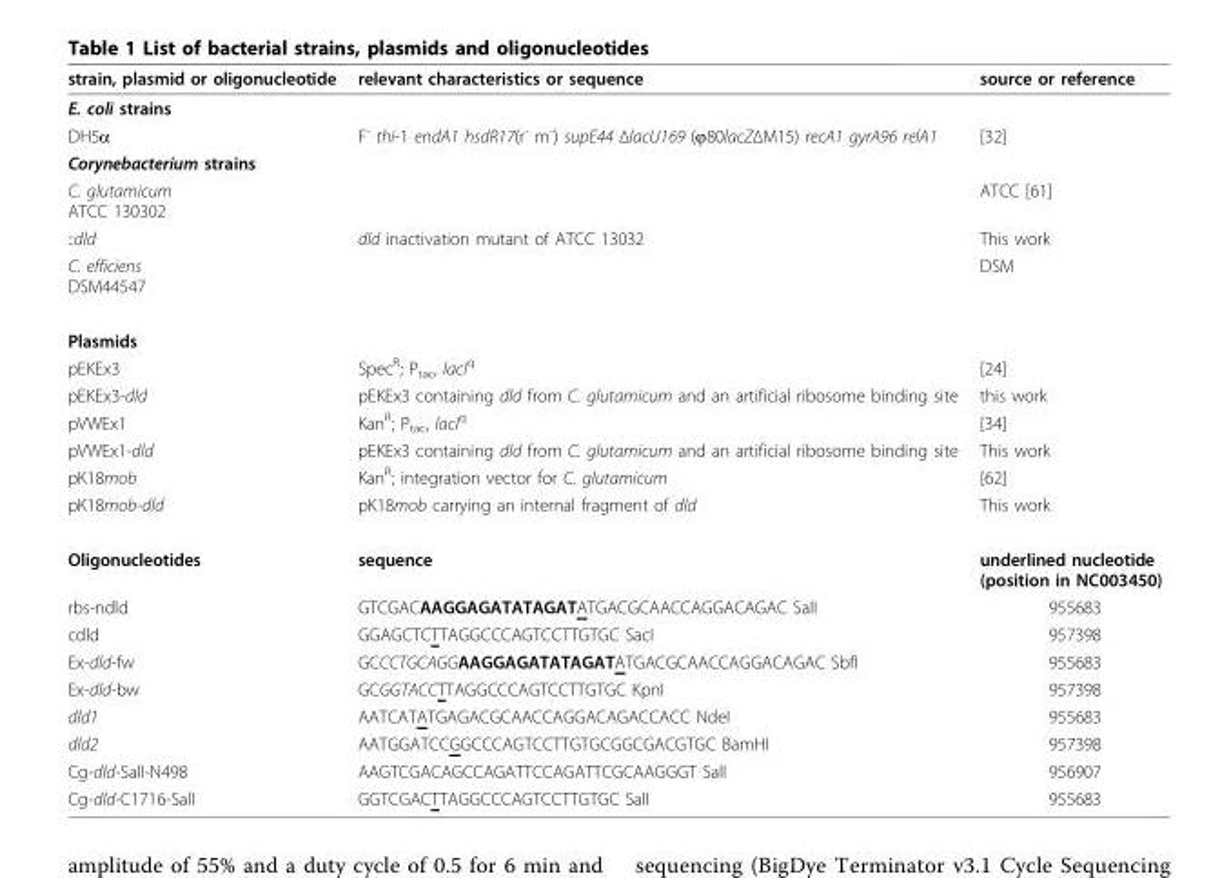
<table><thead><tr><td>strain, plasmid or oligonucleotide</td><td>relevant characteristics or sequence</td><td>source or reference</td></tr></thead><tbody><tr><td colspan="3">E. coli strains</td></tr><tr><td>DH5α</td><td>F<sup>-</sup> thi-1 endA1 hsdR17(r<sup>-</sup> m<sup>-</sup>) supE44 ΔlacU169 (ϕ80lacZΔM15) recA1 gyrA96 relA1</td><td>[32]</td></tr><tr><td colspan="3">Corynebacterium strains</td></tr><tr><td>C. glutamicum ATCC 130302</td><td></td><td>ATCC [61]</td></tr><tr><td>::dld</td><td>dld inactivation mutant of ATCC 13032</td><td>This work</td></tr><tr><td>C. efficiens DSM44547</td><td></td><td>DSM</td></tr><tr><td colspan="3">Plasmids</td></tr><tr><td>pEKEx3</td><td>Spec<sup>R</sup>; P<sub>tac</sub>, lacI<sup>q</sup></td><td>[24]</td></tr><tr><td>pEKEx3-dld</td><td>pEKEx3 containing dld from C. glutamicum and an artificial ribosome binding site</td><td>this work</td></tr><tr><td>pVWEx1</td><td>Kan<sup>R</sup>; P<sub>tac</sub>, lacI<sup>q</sup></td><td>[34]</td></tr><tr><td>pVWEx1-dld</td><td>pEKEx3 containing dld from C. glutamicum and an artificial ribosome binding site</td><td>This work</td></tr><tr><td>pK18mob</td><td>Kan<sup>R</sup>; integration vector for C. glutamicum</td><td>[62]</td></tr><tr><td>pK18mob-dld</td><td>pK18mob carrying an internal fragment of dld</td><td>This work</td></tr><tr><td>Oligonucleotides</td><td>sequence</td><td>underlined nucleotide (position in NC003450)</td></tr><tr><td>rbs-ndld</td><td>GTCGACAAGGAGATATAGATATGACGCAACCAGGACAGAC SalI</td><td>955683</td></tr><tr><td>cdld</td><td>GGAGCTCTTAGGCCCAGTCCTTGTGC SacI</td><td>957398</td></tr><tr><td>Ex-dld-fw</td><td>GCCCTGCAGGAAGGAGATATAGATATGACGCAACCAGGACAGAC SbfI</td><td>955683</td></tr><tr><td>Ex-dld-bw</td><td>GCGGTACCTTAGGCCCAGTCCTTGTGC KpnI</td><td>957398</td></tr><tr><td>dld1</td><td>AATCATATGAGACGCAACCAGGACAGACCACC NdeI</td><td>955683</td></tr><tr><td>dld2</td><td>AATGGATCCGGCCCAGTCCTTGTGCGGCGACGTGC BamHI</td><td>957398</td></tr><tr><td>Cg-dld-SalI-N498</td><td>AAGTCGACAGCCAGATTCCAGATTCGCAAGGGT SalI</td><td>956907</td></tr><tr><td>Cg-dld-C1716-SalI</td><td>GGTCGACTTAGGCCCAGTCCTTGTGC SalI</td><td>955683</td></tr></tbody></table>